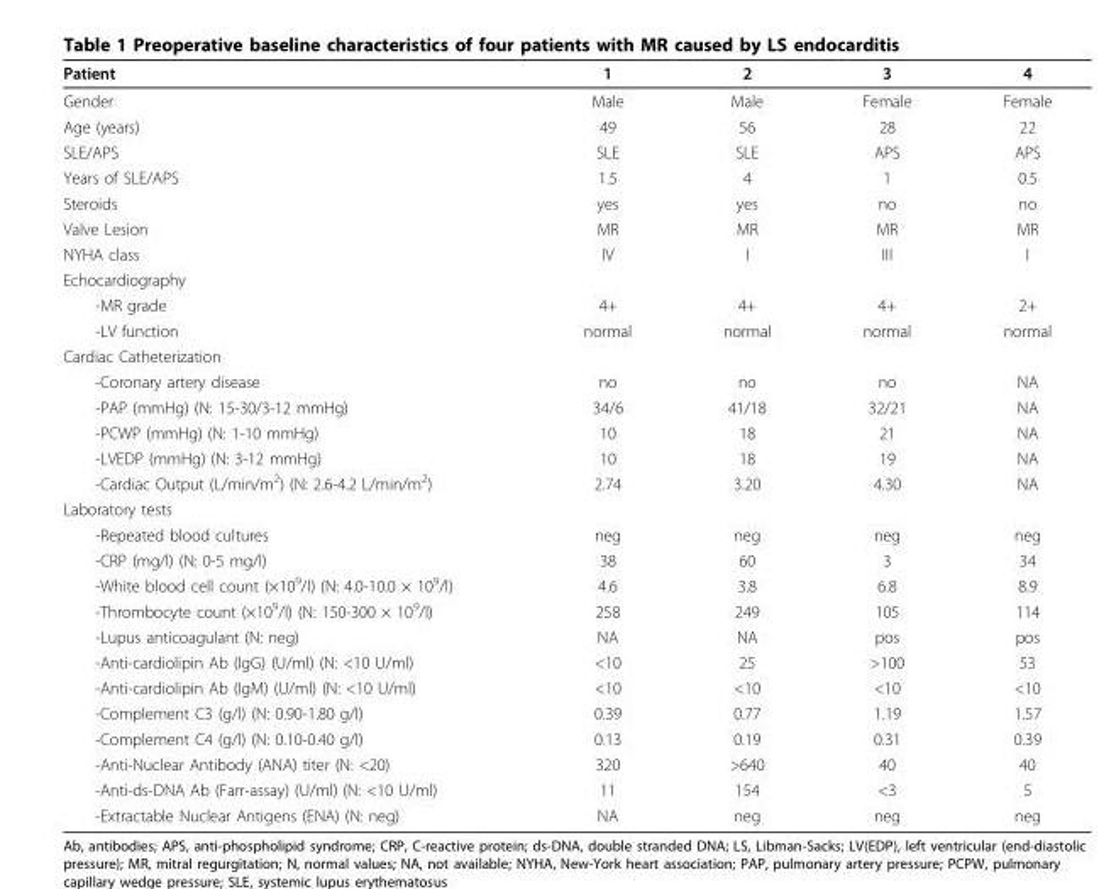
<table><thead><tr><td>Patient</td><td>1</td><td>2</td><td>3</td><td>4</td></tr></thead><tbody><tr><td>Gender</td><td>Male</td><td>Male</td><td>Female</td><td>Female</td></tr><tr><td>Age (years)</td><td>49</td><td>56</td><td>28</td><td>22</td></tr><tr><td>SLE/APS</td><td>SLE</td><td>SLE</td><td>APS</td><td>APS</td></tr><tr><td>Years of SLE/APS</td><td>1.5</td><td>4</td><td>1</td><td>0.5</td></tr><tr><td>Steroids</td><td>yes</td><td>yes</td><td>no</td><td>no</td></tr><tr><td>Valve Lesion</td><td>MR</td><td>MR</td><td>MR</td><td>MR</td></tr><tr><td>NYHA class</td><td>IV</td><td>I</td><td>III</td><td>I</td></tr><tr><td colspan="5">Echocardiography</td></tr><tr><td>-MR grade</td><td>4+</td><td>4+</td><td>4+</td><td>2+</td></tr><tr><td>-LV function</td><td>normal</td><td>normal</td><td>normal</td><td>normal</td></tr><tr><td colspan="5">Cardiac Catheterization</td></tr><tr><td>-Coronary artery disease</td><td>no</td><td>no</td><td>no</td><td>NA</td></tr><tr><td>-PAP (mmHg) (N: 15-30/3-12 mmHg)</td><td>34/6</td><td>41/18</td><td>32/21</td><td>NA</td></tr><tr><td>-PCWP (mmHg) (N: 1-10 mmHg)</td><td>10</td><td>18</td><td>21</td><td>NA</td></tr><tr><td>-LVEDP (mmHg) (N: 3-12 mmHg)</td><td>10</td><td>18</td><td>19</td><td>NA</td></tr><tr><td>-Cardiac Output (L/min/m<sup>2</sup>) (N: 2.6-4.2 L/min/m<sup>2</sup>)</td><td>2.74</td><td>3.20</td><td>4.30</td><td>NA</td></tr><tr><td colspan="5">Laboratory tests</td></tr><tr><td>-Repeated blood cultures</td><td>neg</td><td>neg</td><td>neg</td><td>neg</td></tr><tr><td>-CRP (mg/l) (N: 0-5 mg/l)</td><td>38</td><td>60</td><td>3</td><td>34</td></tr><tr><td>-White blood cell count (×10<sup>9</sup>/l) (N: 4.0-10.0 × 10<sup>9</sup>/l)</td><td>4.6</td><td>3.8</td><td>6.8</td><td>8.9</td></tr><tr><td>-Thrombocyte count (×10<sup>9</sup>/l) (N: 150-300 × 10<sup>9</sup>/l)</td><td>258</td><td>249</td><td>105</td><td>114</td></tr><tr><td>-Lupus anticoagulant (N: neg)</td><td>NA</td><td>NA</td><td>pos</td><td>pos</td></tr><tr><td>-Anti-cardiolipin Ab (IgG) (U/ml) (N: &lt;10 U/ml)</td><td>&lt;10</td><td>25</td><td>&gt;100</td><td>53</td></tr><tr><td>-Anti-cardiolipin Ab (IgM) (U/ml) (N: &lt;10 U/ml)</td><td>&lt;10</td><td>&lt;10</td><td>&lt;10</td><td>&lt;10</td></tr><tr><td>-Complement C3 (g/l) (N: 0.90-1.80 g/l)</td><td>0.39</td><td>0.77</td><td>1.19</td><td>1.57</td></tr><tr><td>-Complement C4 (g/l) (N: 0.10-0.40 g/l)</td><td>0.13</td><td>0.19</td><td>0.31</td><td>0.39</td></tr><tr><td>-Anti-Nuclear Antibody (ANA) titer (N: &lt;20)</td><td>320</td><td>&gt;640</td><td>40</td><td>40</td></tr><tr><td>-Anti-ds-DNA Ab (Farr-assay) (U/ml) (N: &lt;10 U/ml)</td><td>11</td><td>154</td><td>&lt;3</td><td>5</td></tr><tr><td>-Extractable Nuclear Antigens (ENA) (N: neg)</td><td>NA</td><td>neg</td><td>neg</td><td>neg</td></tr></tbody></table>